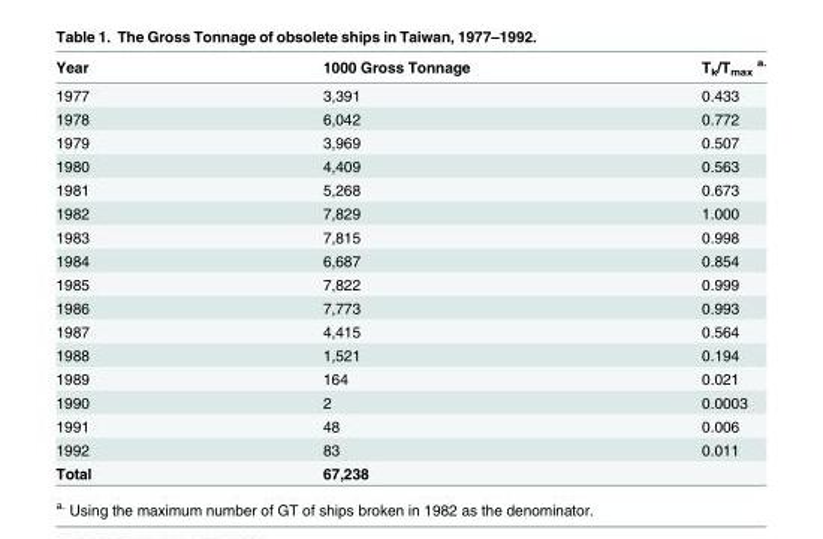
<table><thead><tr><td>Year</td><td>1000 Gross Tonnage</td><td>T<sub>k</sub>/T<sub>max</sub> <sup>a.</sup></td></tr></thead><tbody><tr><td>1977</td><td>3,391</td><td>0.433</td></tr><tr><td>1978</td><td>6,042</td><td>0.772</td></tr><tr><td>1979</td><td>3,969</td><td>0.507</td></tr><tr><td>1980</td><td>4,409</td><td>0.563</td></tr><tr><td>1981</td><td>5,268</td><td>0.673</td></tr><tr><td>1982</td><td>7,829</td><td>1.000</td></tr><tr><td>1983</td><td>7,815</td><td>0.998</td></tr><tr><td>1984</td><td>6,687</td><td>0.854</td></tr><tr><td>1985</td><td>7,822</td><td>0.999</td></tr><tr><td>1986</td><td>7,773</td><td>0.993</td></tr><tr><td>1987</td><td>4,415</td><td>0.564</td></tr><tr><td>1988</td><td>1,521</td><td>0.194</td></tr><tr><td>1989</td><td>164</td><td>0.021</td></tr><tr><td>1990</td><td>2</td><td>0.0003</td></tr><tr><td>1991</td><td>48</td><td>0.006</td></tr><tr><td>1992</td><td>83</td><td>0.011</td></tr><tr><td>Total</td><td>67,238</td><td></td></tr></tbody></table>